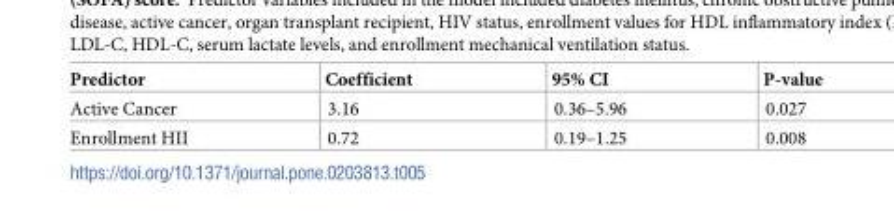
<table><thead><tr><td>Predictor</td><td>Coefficient</td><td>95% CI</td><td>P-value</td></tr></thead><tbody><tr><td>Active Cancer</td><td>3.16</td><td>0.36–5.96</td><td>0.027</td></tr><tr><td>Enrollment HII</td><td>0.72</td><td>0.19–1.25</td><td>0.008</td></tr></tbody></table>